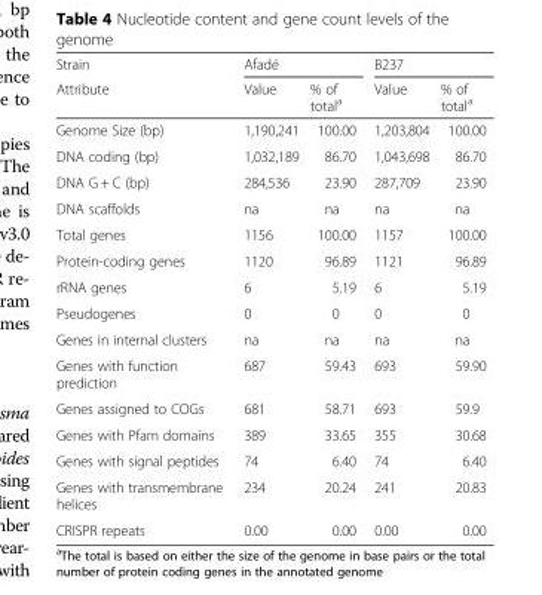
<table><thead><tr><td rowspan="2">Strain Attribute</td><td colspan="2">Afadé</td><td colspan="2">B237</td></tr><tr><td>Value</td><td>% of total<sup>a</sup></td><td>Value</td><td>% of total<sup>a</sup></td></tr></thead><tbody><tr><td>Genome Size (bp)</td><td>1,190,241</td><td>100.00</td><td>1,203,804</td><td>100.00</td></tr><tr><td>DNA coding (bp)</td><td>1,032,189</td><td>86.70</td><td>1,043,698</td><td>86.70</td></tr><tr><td>DNA G + C (bp)</td><td>284,536</td><td>23.90</td><td>287,709</td><td>23.90</td></tr><tr><td>DNA scaffolds</td><td>na</td><td>na</td><td>na</td><td>na</td></tr><tr><td>Total genes</td><td>1156</td><td>100.00</td><td>1157</td><td>100.00</td></tr><tr><td>Protein-coding genes</td><td>1120</td><td>96.89</td><td>1121</td><td>96.89</td></tr><tr><td>rRNA genes</td><td>6</td><td>5.19</td><td>6</td><td>5.19</td></tr><tr><td>Pseudogenes</td><td>0</td><td>0</td><td>0</td><td>0</td></tr><tr><td>Genes in internal clusters</td><td>na</td><td>na</td><td>na</td><td>na</td></tr><tr><td>Genes with function prediction</td><td>687</td><td>59.43</td><td>693</td><td>59.90</td></tr><tr><td>Genes assigned to COGs</td><td>681</td><td>58.71</td><td>693</td><td>59.9</td></tr><tr><td>Genes with Pfam domains</td><td>389</td><td>33.65</td><td>355</td><td>30.68</td></tr><tr><td>Genes with signal peptides</td><td>74</td><td>6.40</td><td>74</td><td>6.40</td></tr><tr><td>Genes with transmembrane helices</td><td>234</td><td>20.24</td><td>241</td><td>20.83</td></tr><tr><td>CRISPR repeats</td><td>0.00</td><td>0.00</td><td>0.00</td><td>0.00</td></tr></tbody></table>